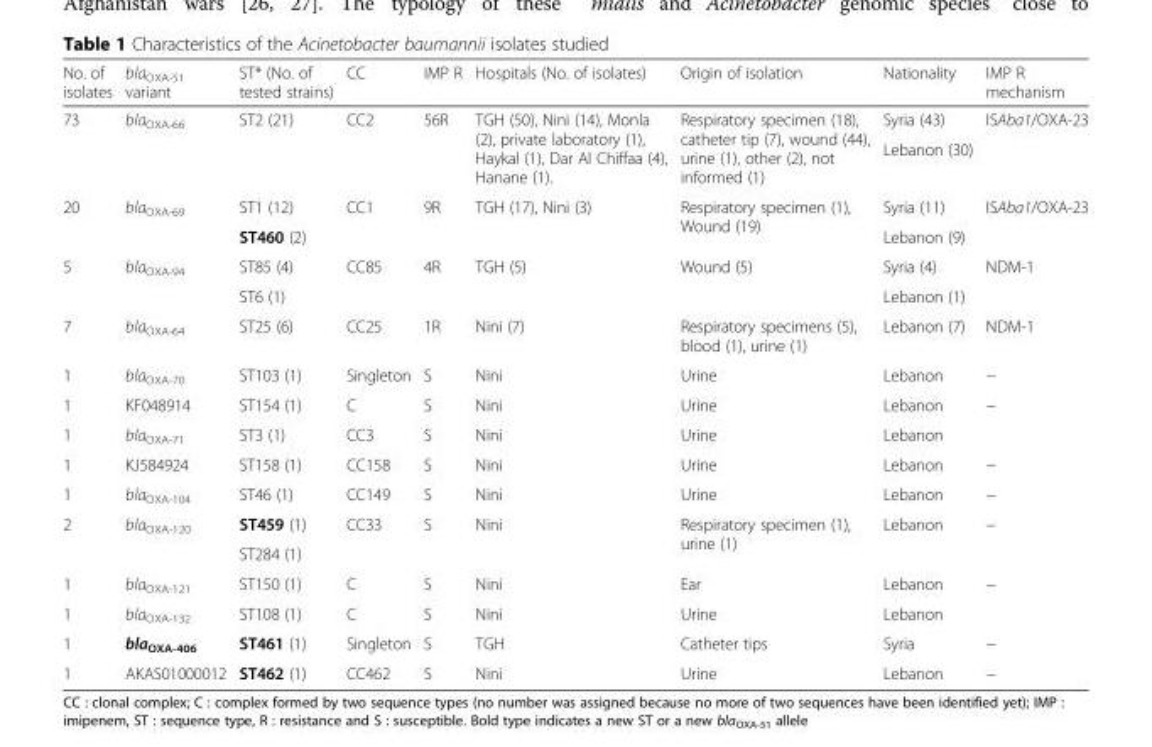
<table><thead><tr><td>No. of isolates</td><td>bla<sub>OXA-51</sub> variant</td><td>ST* (No. of tested strains)</td><td>CC</td><td>IMP R</td><td>Hospitals (No. of isolates)</td><td>Origin of isolation</td><td>Nationality</td><td>IMP R mechanism</td></tr></thead><tbody><tr><td rowspan="2">73</td><td rowspan="2">bla<sub>OXA-66</sub></td><td rowspan="2">ST2 (21)</td><td rowspan="2">CC2</td><td rowspan="2">56R</td><td rowspan="2">TGH (50), Nini (14), Monla (2), private laboratory (1), Haykal (1), Dar Al Chiffaa (4), Hanane (1).</td><td rowspan="2">Respiratory specimen (18), catheter tip (7), wound (44), urine (1), other (2), not informed (1)</td><td>Syria (43)</td><td rowspan="2">ISAba1/OXA-23</td></tr><tr><td>Lebanon (30)</td></tr><tr><td rowspan="2">20</td><td rowspan="2">bla<sub>OXA-69</sub></td><td>ST1 (12)</td><td rowspan="2">CC1</td><td rowspan="2">9R</td><td rowspan="2">TGH (17), Nini (3)</td><td rowspan="2">Respiratory specimen (1), Wound (19)</td><td>Syria (11)</td><td rowspan="2">ISAba1/OXA-23</td></tr><tr><td>ST460 (2)</td><td>Lebanon (9)</td></tr><tr><td rowspan="2">5</td><td rowspan="2">bla<sub>OXA-94</sub></td><td>ST85 (4)</td><td rowspan="2">CC85</td><td rowspan="2">4R</td><td rowspan="2">TGH (5)</td><td rowspan="2">Wound (5)</td><td>Syria (4)</td><td rowspan="2">NDM-1</td></tr><tr><td>ST6 (1)</td><td>Lebanon (1)</td></tr><tr><td>7</td><td>bla<sub>OXA-64</sub></td><td>ST25 (6)</td><td>CC25</td><td>1R</td><td>Nini (7)</td><td>Respiratory specimens (5), blood (1), urine (1)</td><td>Lebanon (7)</td><td>NDM-1</td></tr><tr><td>1</td><td>bla<sub>OXA-70</sub></td><td>ST103 (1)</td><td>Singleton</td><td>S</td><td>Nini</td><td>Urine</td><td>Lebanon</td><td>−</td></tr><tr><td>1</td><td>KF048914</td><td>ST154 (1)</td><td>C</td><td>S</td><td>Nini</td><td>Urine</td><td>Lebanon</td><td>−</td></tr><tr><td>1</td><td>bla<sub>OXA-71</sub></td><td>ST3 (1)</td><td>CC3</td><td>S</td><td>Nini</td><td>Urine</td><td>Lebanon</td><td></td></tr><tr><td>1</td><td>KJ584924</td><td>ST158 (1)</td><td>CC158</td><td>S</td><td>Nini</td><td>Urine</td><td>Lebanon</td><td>−</td></tr><tr><td>1</td><td>bla<sub>OXA-104</sub></td><td>ST46 (1)</td><td>CC149</td><td>S</td><td>Nini</td><td>Urine</td><td>Lebanon</td><td>−</td></tr><tr><td rowspan="2">2</td><td rowspan="2">bla<sub>OXA-120</sub></td><td>ST459 (1)</td><td rowspan="2">CC33</td><td rowspan="2">S</td><td rowspan="2">Nini</td><td rowspan="2">Respiratory specimen (1), urine (1)</td><td rowspan="2">Lebanon</td><td rowspan="2">−</td></tr><tr><td>ST284 (1)</td></tr><tr><td>1</td><td>bla<sub>OXA-121</sub></td><td>ST150 (1)</td><td>C</td><td>S</td><td>Nini</td><td>Ear</td><td>Lebanon</td><td>−</td></tr><tr><td>1</td><td>bla<sub>OXA-132</sub></td><td>ST108 (1)</td><td>C</td><td>S</td><td>Nini</td><td>Urine</td><td>Lebanon</td><td></td></tr><tr><td>1</td><td>bla<sub>OXA-406</sub></td><td>ST461 (1)</td><td>Singleton</td><td>S</td><td>TGH</td><td>Catheter tips</td><td>Syria</td><td>−</td></tr><tr><td>1</td><td>AKAS01000012</td><td>ST462 (1)</td><td>CC462</td><td>S</td><td>Nini</td><td>Urine</td><td>Lebanon</td><td>−</td></tr></tbody></table>